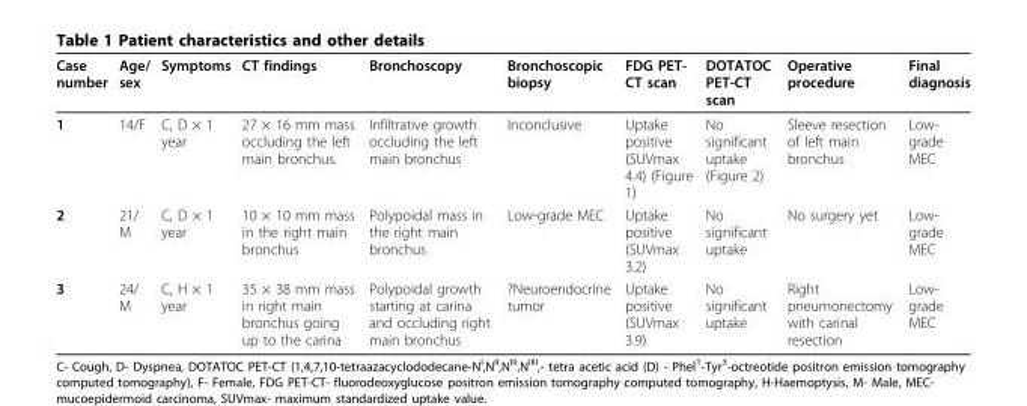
<table><thead><tr><td>Case number</td><td>Age/ sex</td><td>Symptoms</td><td>CT findings</td><td>Bronchoscopy</td><td>Bronchoscopic biopsy</td><td>FDG PET- CT scan</td><td>DOTATOC PET-CT scan</td><td>Operative procedure</td><td>Final diagnosis</td></tr></thead><tbody><tr><td>1</td><td>14/F</td><td>C, D × 1 year</td><td>27 × 16 mm mass occluding the left main bronchus.</td><td>Infiltrative growth occluding the left main bronchus</td><td>Inconclusive</td><td>Uptake positive (SUVmax 4.4) (Figure 1)</td><td>No significant uptake (Figure 2)</td><td>Sleeve resection of left main bronchus</td><td>Low- grade MEC</td></tr><tr><td>2</td><td>21/ M</td><td>C, D × 1 year</td><td>10 × 10 mm mass in the right main bronchus</td><td>Polypoidal mass in the right main bronchus</td><td>Low-grade MEC</td><td>Uptake positive (SUVmax 3.2)</td><td>No significant uptake</td><td>No surgery yet</td><td>Low- grade MEC</td></tr><tr><td>3</td><td>24/ M</td><td>C, H × 1 year</td><td>35 × 38 mm mass in right main bronchus going up to the carina</td><td>Polypoidal growth starting at carina and occluding right main bronchus</td><td>?Neuroendocrine tumor</td><td>Uptake positive (SUVmax 3.9)</td><td>No significant uptake</td><td>Right pneumonectomy with carinal resection</td><td>Low- grade MEC</td></tr></tbody></table>